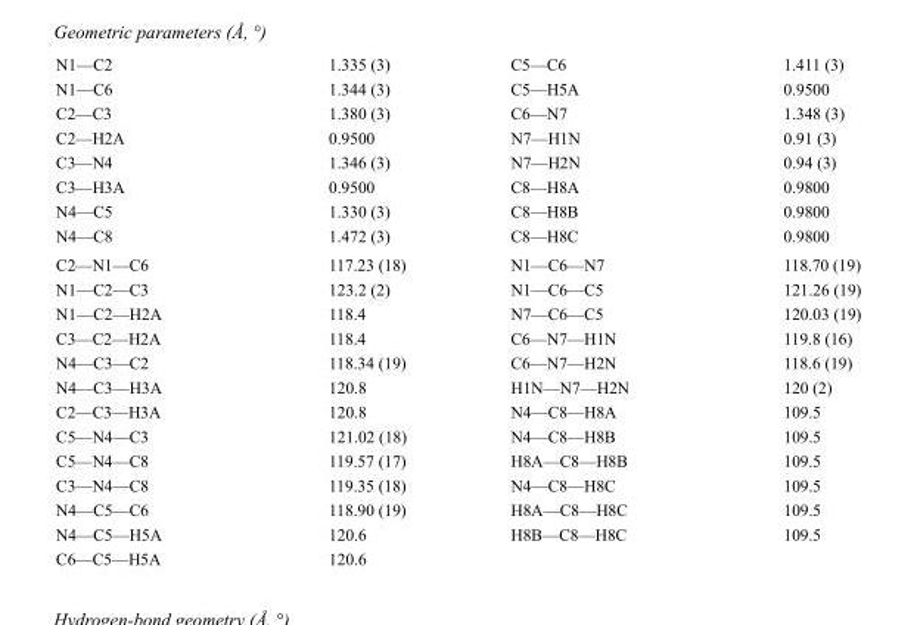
<table><tbody><tr><td>N1—C2</td><td>1.335 (3)</td><td>C5—C6</td><td>1.411 (3)</td></tr><tr><td>N1—C6</td><td>1.344 (3)</td><td>C5—H5A</td><td>0.9500</td></tr><tr><td>C2—C3</td><td>1.380 (3)</td><td>C6—N7</td><td>1.348 (3)</td></tr><tr><td>C2—H2A</td><td>0.9500</td><td>N7—H1N</td><td>0.91 (3)</td></tr><tr><td>C3—N4</td><td>1.346 (3)</td><td>N7—H2N</td><td>0.94 (3)</td></tr><tr><td>C3—H3A</td><td>0.9500</td><td>C8—H8A</td><td>0.9800</td></tr><tr><td>N4—C5</td><td>1.330 (3)</td><td>C8—H8B</td><td>0.9800</td></tr><tr><td>N4—C8</td><td>1.472 (3)</td><td>C8—H8C</td><td>0.9800</td></tr><tr><td>C2—N1—C6</td><td>117.23 (18)</td><td>N1—C6—N7</td><td>118.70 (19)</td></tr><tr><td>N1—C2—C3</td><td>123.2 (2)</td><td>N1—C6—C5</td><td>121.26 (19)</td></tr><tr><td>N1—C2—H2A</td><td>118.4</td><td>N7—C6—C5</td><td>120.03 (19)</td></tr><tr><td>C3—C2—H2A</td><td>118.4</td><td>C6—N7—H1N</td><td>119.8 (16)</td></tr><tr><td>N4—C3—C2</td><td>118.34 (19)</td><td>C6—N7—H2N</td><td>118.6 (19)</td></tr><tr><td>N4—C3—H3A</td><td>120.8</td><td>H1N—N7—H2N</td><td>120 (2)</td></tr><tr><td>C2—C3—H3A</td><td>120.8</td><td>N4—C8—H8A</td><td>109.5</td></tr><tr><td>C5—N4—C3</td><td>121.02 (18)</td><td>N4—C8—H8B</td><td>109.5</td></tr><tr><td>C5—N4—C8</td><td>119.57 (17)</td><td>H8A—C8—H8B</td><td>109.5</td></tr><tr><td>C3—N4—C8</td><td>119.35 (18)</td><td>N4—C8—H8C</td><td>109.5</td></tr><tr><td>N4—C5—C6</td><td>118.90 (19)</td><td>H8A—C8—H8C</td><td>109.5</td></tr><tr><td>N4—C5—H5A</td><td>120.6</td><td>H8B—C8—H8C</td><td>109.5</td></tr><tr><td>C6—C5—H5A</td><td>120.6</td><td></td><td></td></tr></tbody></table>